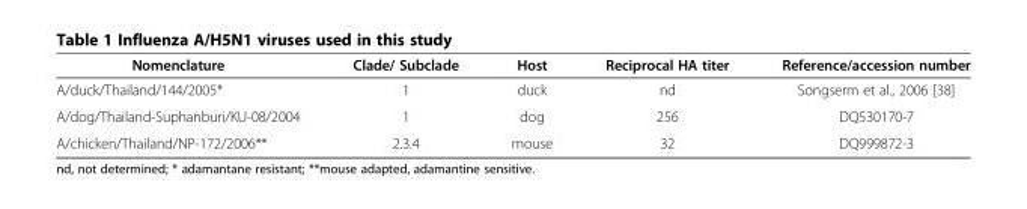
<table><thead><tr><td>Nomenclature</td><td>Clade/ Subclade</td><td>Host</td><td>Reciprocal HA titer</td><td>Reference/accession number</td></tr></thead><tbody><tr><td>A/duck/Thailand/144/2005*</td><td>1</td><td>duck</td><td>nd</td><td>Songserm et al., 2006 [38]</td></tr><tr><td>A/dog/Thailand-Suphanburi/KU-08/2004</td><td>1</td><td>dog</td><td>256</td><td>DQ530170-7</td></tr><tr><td>A/chicken/Thailand/NP-172/2006**</td><td>2.3.4</td><td>mouse</td><td>32</td><td>DQ999872-3</td></tr></tbody></table>